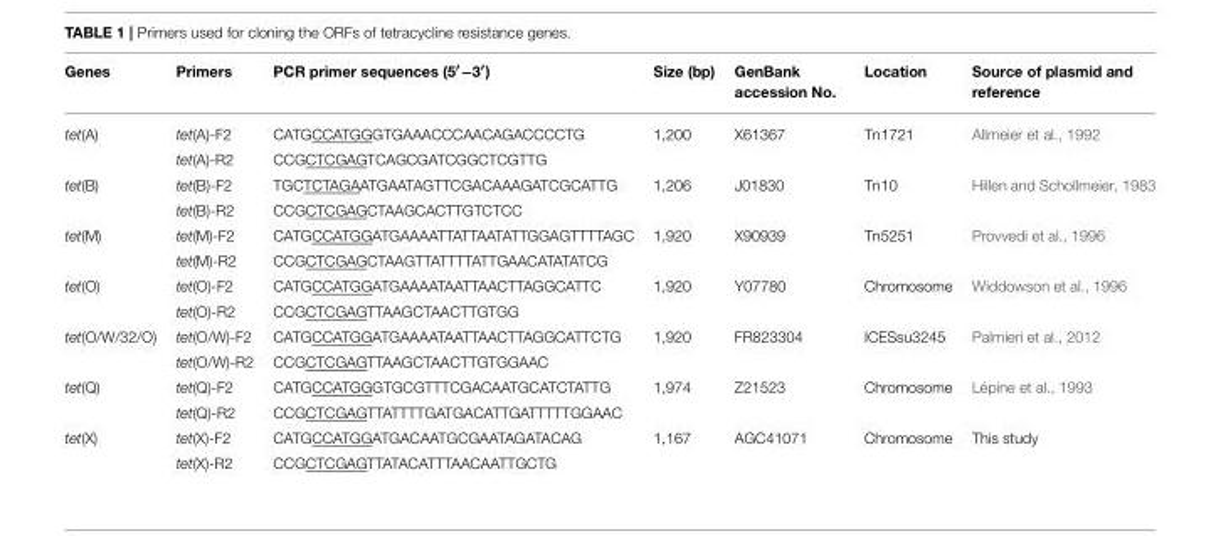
<table><thead><tr><td>Genes</td><td>Primers</td><td>PCR primer sequences (5′−3′)</td><td>Size (bp)</td><td>GenBank accession No.</td><td>Location</td><td>Source of plasmid and reference</td></tr></thead><tbody><tr><td rowspan="2">tet(A)</td><td>tet(A)-F2</td><td>CATGCCATGGGTGAAACCCAACAGACCCCTG</td><td>1,200</td><td>X61367</td><td>Tn1721</td><td>Allmeier et al., 1992</td></tr><tr><td>tet(A)-R2</td><td>CCGCTCGAGTCAGCGATCGGCTCGTTG</td><td></td><td></td><td></td><td></td></tr><tr><td rowspan="2">tet(B)</td><td>tet(B)-F2</td><td>TGCTCTAGAATGAATAGTTCGACAAAGATCGCATTG</td><td>1,206</td><td>J01830</td><td>Tn10</td><td>Hillen and Schollmeier, 1983</td></tr><tr><td>tet(B)-R2</td><td>CCGCTCGAGCTAAGCACTTGTCTCC</td><td></td><td></td><td></td><td></td></tr><tr><td rowspan="2">tet(M)</td><td>tet(M)-F2</td><td>CATGCCATGGATGAAAATTATTAATATTGGAGTTTTAGC</td><td>1,920</td><td>X90939</td><td>Tn5251</td><td>Provvedi et al., 1996</td></tr><tr><td>tet(M)-R2</td><td>CCGCTCGAGCTAAGTTATTTTATTGAACATATATCG</td><td></td><td></td><td></td><td></td></tr><tr><td rowspan="2">tet(O)</td><td>tet(O)-F2</td><td>CATGCCATGGATGAAAATAATTAACTTAGGCATTC</td><td>1,920</td><td>Y07780</td><td>Chromosome</td><td>Widdowson et al., 1996</td></tr><tr><td>tet(O)-R2</td><td>CCGCTCGAGTTAAGCTAACTTGTGG</td><td></td><td></td><td></td><td></td></tr><tr><td rowspan="2">tet(O/W/32/O)</td><td>tet(O/W)-F2</td><td>CATGCCATGGATGAAAATAATTAACTTAGGCATTCTG</td><td>1,920</td><td>FR823304</td><td>ICESsu3245</td><td>Palmieri et al., 2012</td></tr><tr><td>tet(O/W)-R2</td><td>CCGCTCGAGTTAAGCTAACTTGTGGAAC</td><td></td><td></td><td></td><td></td></tr><tr><td rowspan="2">tet(Q)</td><td>tet(Q)-F2</td><td>CATGCCATGGGTGCGTTTCGACAATGCATCTATTG</td><td>1,974</td><td>Z21523</td><td>Chromosome</td><td>Lépine et al., 1993</td></tr><tr><td>tet(Q)-R2</td><td>CCGCTCGAGTTATTTTGATGACATTGATTTTTGGAAC</td><td></td><td></td><td></td><td></td></tr><tr><td rowspan="2">tet(X)</td><td>tet(X)-F2</td><td>CATGCCATGGATGACAATGCGAATAGATACAG</td><td>1,167</td><td>AGC41071</td><td>Chromosome</td><td>This study</td></tr><tr><td>tet(X)-R2</td><td>CCGCTCGAGTTATACATTTAACAATTGCTG</td><td></td><td></td><td></td><td></td></tr></tbody></table>